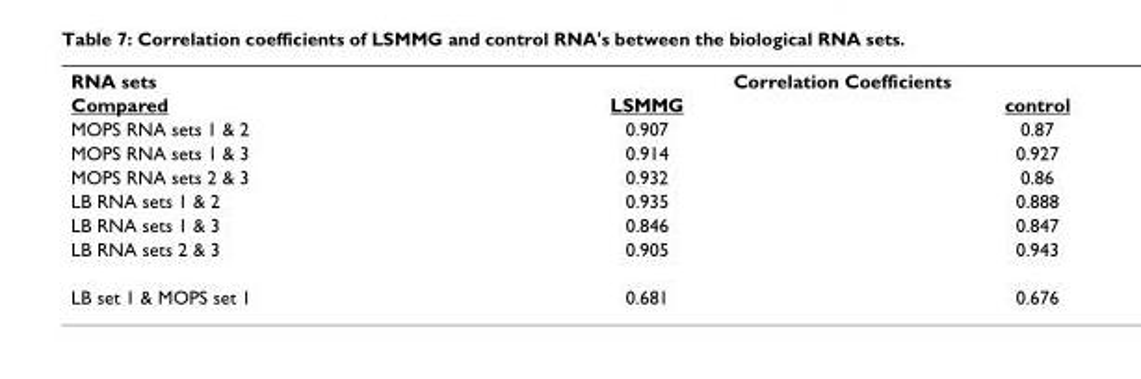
<table><tbody><tr><td>RNA sets</td><td colspan="2">Correlation Coefficients</td></tr><tr><td>Compared</td><td>LSMMG</td><td>control</td></tr><tr><td>MOPS RNA sets 1 &amp; 2</td><td>0.907</td><td>0.87</td></tr><tr><td>MOPS RNA sets 1 &amp; 3</td><td>0.914</td><td>0.927</td></tr><tr><td>MOPS RNA sets 2 &amp; 3</td><td>0.932</td><td>0.86</td></tr><tr><td>LB RNA sets 1 &amp; 2</td><td>0.935</td><td>0.888</td></tr><tr><td>LB RNA sets 1 &amp; 3</td><td>0.846</td><td>0.847</td></tr><tr><td>LB RNA sets 2 &amp; 3</td><td>0.905</td><td>0.943</td></tr><tr><td>LB set 1 &amp; MOPS set 1</td><td>0.681</td><td>0.676</td></tr></tbody></table>